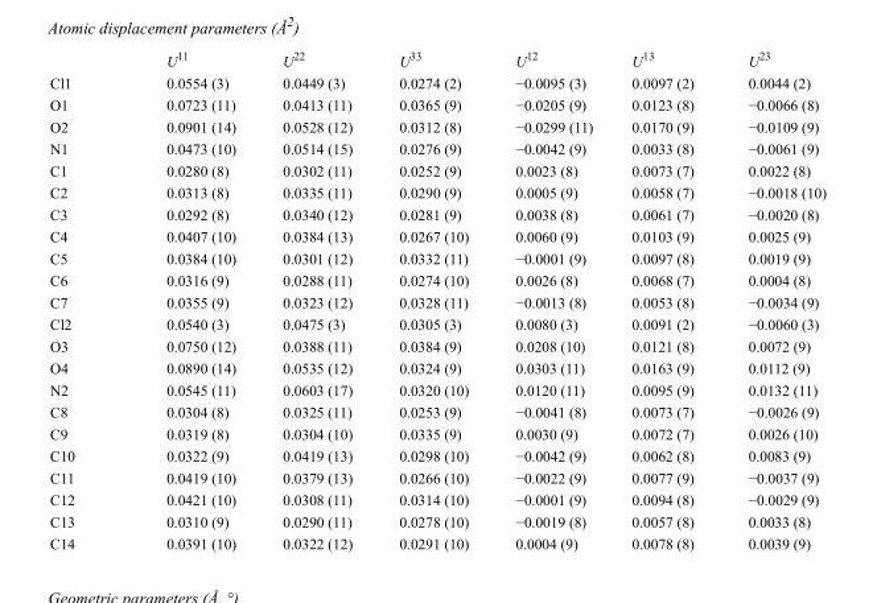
<table><thead><tr><td></td><td>U<sup>11</sup></td><td>U<sup>22</sup></td><td>U<sup>33</sup></td><td>U<sup>12</sup></td><td>U<sup>13</sup></td><td>U<sup>23</sup></td></tr></thead><tbody><tr><td>Cl1</td><td>0.0554 (3)</td><td>0.0449 (3)</td><td>0.0274 (2)</td><td>−0.0095 (3)</td><td>0.0097 (2)</td><td>0.0044 (2)</td></tr><tr><td>O1</td><td>0.0723 (11)</td><td>0.0413 (11)</td><td>0.0365 (9)</td><td>−0.0205 (9)</td><td>0.0123 (8)</td><td>−0.0066 (8)</td></tr><tr><td>O2</td><td>0.0901 (14)</td><td>0.0528 (12)</td><td>0.0312 (8)</td><td>−0.0299 (11)</td><td>0.0170 (9)</td><td>−0.0109 (9)</td></tr><tr><td>N1</td><td>0.0473 (10)</td><td>0.0514 (15)</td><td>0.0276 (9)</td><td>−0.0042 (9)</td><td>0.0033 (8)</td><td>−0.0061 (9)</td></tr><tr><td>C1</td><td>0.0280 (8)</td><td>0.0302 (11)</td><td>0.0252 (9)</td><td>0.0023 (8)</td><td>0.0073 (7)</td><td>0.0022 (8)</td></tr><tr><td>C2</td><td>0.0313 (8)</td><td>0.0335 (11)</td><td>0.0290 (9)</td><td>0.0005 (9)</td><td>0.0058 (7)</td><td>−0.0018 (10)</td></tr><tr><td>C3</td><td>0.0292 (8)</td><td>0.0340 (12)</td><td>0.0281 (9)</td><td>0.0038 (8)</td><td>0.0061 (7)</td><td>−0.0020 (8)</td></tr><tr><td>C4</td><td>0.0407 (10)</td><td>0.0384 (13)</td><td>0.0267 (10)</td><td>0.0060 (9)</td><td>0.0103 (9)</td><td>0.0025 (9)</td></tr><tr><td>C5</td><td>0.0384 (10)</td><td>0.0301 (12)</td><td>0.0332 (11)</td><td>−0.0001 (9)</td><td>0.0097 (8)</td><td>0.0019 (9)</td></tr><tr><td>C6</td><td>0.0316 (9)</td><td>0.0288 (11)</td><td>0.0274 (10)</td><td>0.0026 (8)</td><td>0.0068 (7)</td><td>0.0004 (8)</td></tr><tr><td>C7</td><td>0.0355 (9)</td><td>0.0323 (12)</td><td>0.0328 (11)</td><td>−0.0013 (8)</td><td>0.0053 (8)</td><td>−0.0034 (9)</td></tr><tr><td>Cl2</td><td>0.0540 (3)</td><td>0.0475 (3)</td><td>0.0305 (3)</td><td>0.0080 (3)</td><td>0.0091 (2)</td><td>−0.0060 (3)</td></tr><tr><td>O3</td><td>0.0750 (12)</td><td>0.0388 (11)</td><td>0.0384 (9)</td><td>0.0208 (10)</td><td>0.0121 (8)</td><td>0.0072 (9)</td></tr><tr><td>O4</td><td>0.0890 (14)</td><td>0.0535 (12)</td><td>0.0324 (9)</td><td>0.0303 (11)</td><td>0.0163 (9)</td><td>0.0112 (9)</td></tr><tr><td>N2</td><td>0.0545 (11)</td><td>0.0603 (17)</td><td>0.0320 (10)</td><td>0.0120 (11)</td><td>0.0095 (9)</td><td>0.0132 (11)</td></tr><tr><td>C8</td><td>0.0304 (8)</td><td>0.0325 (11)</td><td>0.0253 (9)</td><td>−0.0041 (8)</td><td>0.0073 (7)</td><td>−0.0026 (9)</td></tr><tr><td>C9</td><td>0.0319 (8)</td><td>0.0304 (10)</td><td>0.0335 (9)</td><td>0.0030 (9)</td><td>0.0072 (7)</td><td>0.0026 (10)</td></tr><tr><td>C10</td><td>0.0322 (9)</td><td>0.0419 (13)</td><td>0.0298 (10)</td><td>−0.0042 (9)</td><td>0.0062 (8)</td><td>0.0083 (9)</td></tr><tr><td>C11</td><td>0.0419 (10)</td><td>0.0379 (13)</td><td>0.0266 (10)</td><td>−0.0022 (9)</td><td>0.0077 (9)</td><td>−0.0037 (9)</td></tr><tr><td>C12</td><td>0.0421 (10)</td><td>0.0308 (11)</td><td>0.0314 (10)</td><td>−0.0001 (9)</td><td>0.0094 (8)</td><td>−0.0029 (9)</td></tr><tr><td>C13</td><td>0.0310 (9)</td><td>0.0290 (11)</td><td>0.0278 (10)</td><td>−0.0019 (8)</td><td>0.0057 (8)</td><td>0.0033 (8)</td></tr><tr><td>C14</td><td>0.0391 (10)</td><td>0.0322 (12)</td><td>0.0291 (10)</td><td>0.0004 (9)</td><td>0.0078 (8)</td><td>0.0039 (9)</td></tr></tbody></table>